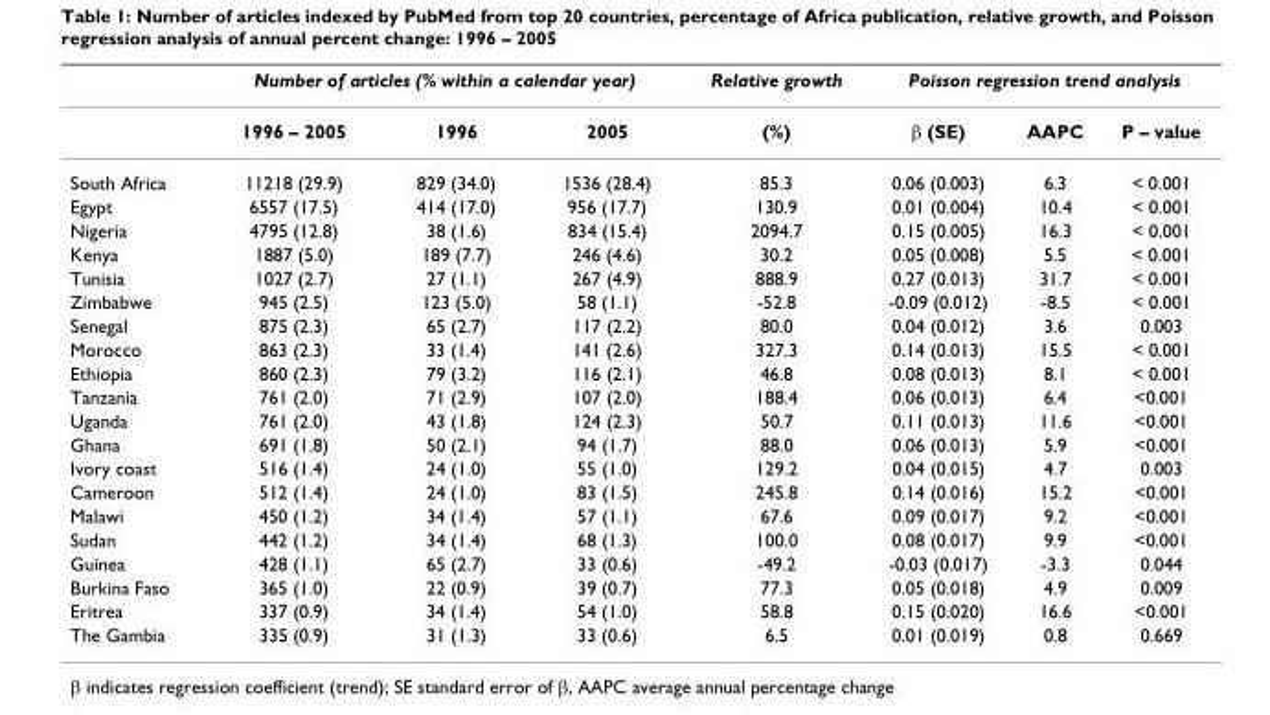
<table><thead><tr><td rowspan="2"></td><td colspan="3">Number of articles (% within a calendar year)</td><td rowspan="2">Relative growth (%)</td><td colspan="3">Poisson regression trend analysis</td></tr><tr><td>1996 – 2005</td><td>1996</td><td>2005</td><td>β (SE)</td><td>AAPC</td><td>P – value</td></tr></thead><tbody><tr><td>South Africa</td><td>11218 (29.9)</td><td>829 (34.0)</td><td>1536 (28.4)</td><td>85.3</td><td>0.06 (0.003)</td><td>6.3</td><td>&lt; 0.001</td></tr><tr><td>Egypt</td><td>6557 (17.5)</td><td>414 (17.0)</td><td>956 (17.7)</td><td>130.9</td><td>0.01 (0.004)</td><td>10.4</td><td>&lt; 0.001</td></tr><tr><td>Nigeria</td><td>4795 (12.8)</td><td>38 (1.6)</td><td>834 (15.4)</td><td>2094.7</td><td>0.15 (0.005)</td><td>16.3</td><td>&lt; 0.001</td></tr><tr><td>Kenya</td><td>1887 (5.0)</td><td>189 (7.7)</td><td>246 (4.6)</td><td>30.2</td><td>0.05 (0.008)</td><td>5.5</td><td>&lt; 0.001</td></tr><tr><td>Tunisia</td><td>1027 (2.7)</td><td>27 (1.1)</td><td>267 (4.9)</td><td>888.9</td><td>0.27 (0.013)</td><td>31.7</td><td>&lt; 0.001</td></tr><tr><td>Zimbabwe</td><td>945 (2.5)</td><td>123 (5.0)</td><td>58 (1.1)</td><td>-52.8</td><td>-0.09 (0.012)</td><td>-8.5</td><td>&lt; 0.001</td></tr><tr><td>Senegal</td><td>875 (2.3)</td><td>65 (2.7)</td><td>117 (2.2)</td><td>80.0</td><td>0.04 (0.012)</td><td>3.6</td><td>0.003</td></tr><tr><td>Morocco</td><td>863 (2.3)</td><td>33 (1.4)</td><td>141 (2.6)</td><td>327.3</td><td>0.14 (0.013)</td><td>15.5</td><td>&lt; 0.001</td></tr><tr><td>Ethiopia</td><td>860 (2.3)</td><td>79 (3.2)</td><td>116 (2.1)</td><td>46.8</td><td>0.08 (0.013)</td><td>8.1</td><td>&lt; 0.001</td></tr><tr><td>Tanzania</td><td>761 (2.0)</td><td>71 (2.9)</td><td>107 (2.0)</td><td>188.4</td><td>0.06 (0.013)</td><td>6.4</td><td>&lt;0.001</td></tr><tr><td>Uganda</td><td>761 (2.0)</td><td>43 (1.8)</td><td>124 (2.3)</td><td>50.7</td><td>0.11 (0.013)</td><td>11.6</td><td>&lt;0.001</td></tr><tr><td>Ghana</td><td>691 (1.8)</td><td>50 (2.1)</td><td>94 (1.7)</td><td>88.0</td><td>0.06 (0.013)</td><td>5.9</td><td>&lt;0.001</td></tr><tr><td>Ivory coast</td><td>516 (1.4)</td><td>24 (1.0)</td><td>55 (1.0)</td><td>129.2</td><td>0.04 (0.015)</td><td>4.7</td><td>0.003</td></tr><tr><td>Cameroon</td><td>512 (1.4)</td><td>24 (1.0)</td><td>83 (1.5)</td><td>245.8</td><td>0.14 (0.016)</td><td>15.2</td><td>&lt;0.001</td></tr><tr><td>Malawi</td><td>450 (1.2)</td><td>34 (1.4)</td><td>57 (1.1)</td><td>67.6</td><td>0.09 (0.017)</td><td>9.2</td><td>&lt;0.001</td></tr><tr><td>Sudan</td><td>442 (1.2)</td><td>34 (1.4)</td><td>68 (1.3)</td><td>100.0</td><td>0.08 (0.017)</td><td>9.9</td><td>&lt;0.001</td></tr><tr><td>Guinea</td><td>428 (1.1)</td><td>65 (2.7)</td><td>33 (0.6)</td><td>-49.2</td><td>-0.03 (0.017)</td><td>-3.3</td><td>0.044</td></tr><tr><td>Burkina Faso</td><td>365 (1.0)</td><td>22 (0.9)</td><td>39 (0.7)</td><td>77.3</td><td>0.05 (0.018)</td><td>4.9</td><td>0.009</td></tr><tr><td>Eritrea</td><td>337 (0.9)</td><td>34 (1.4)</td><td>54 (1.0)</td><td>58.8</td><td>0.15 (0.020)</td><td>16.6</td><td>&lt;0.001</td></tr><tr><td>The Gambia</td><td>335 (0.9)</td><td>31 (1.3)</td><td>33 (0.6)</td><td>6.5</td><td>0.01 (0.019)</td><td>0.8</td><td>0.669</td></tr></tbody></table>